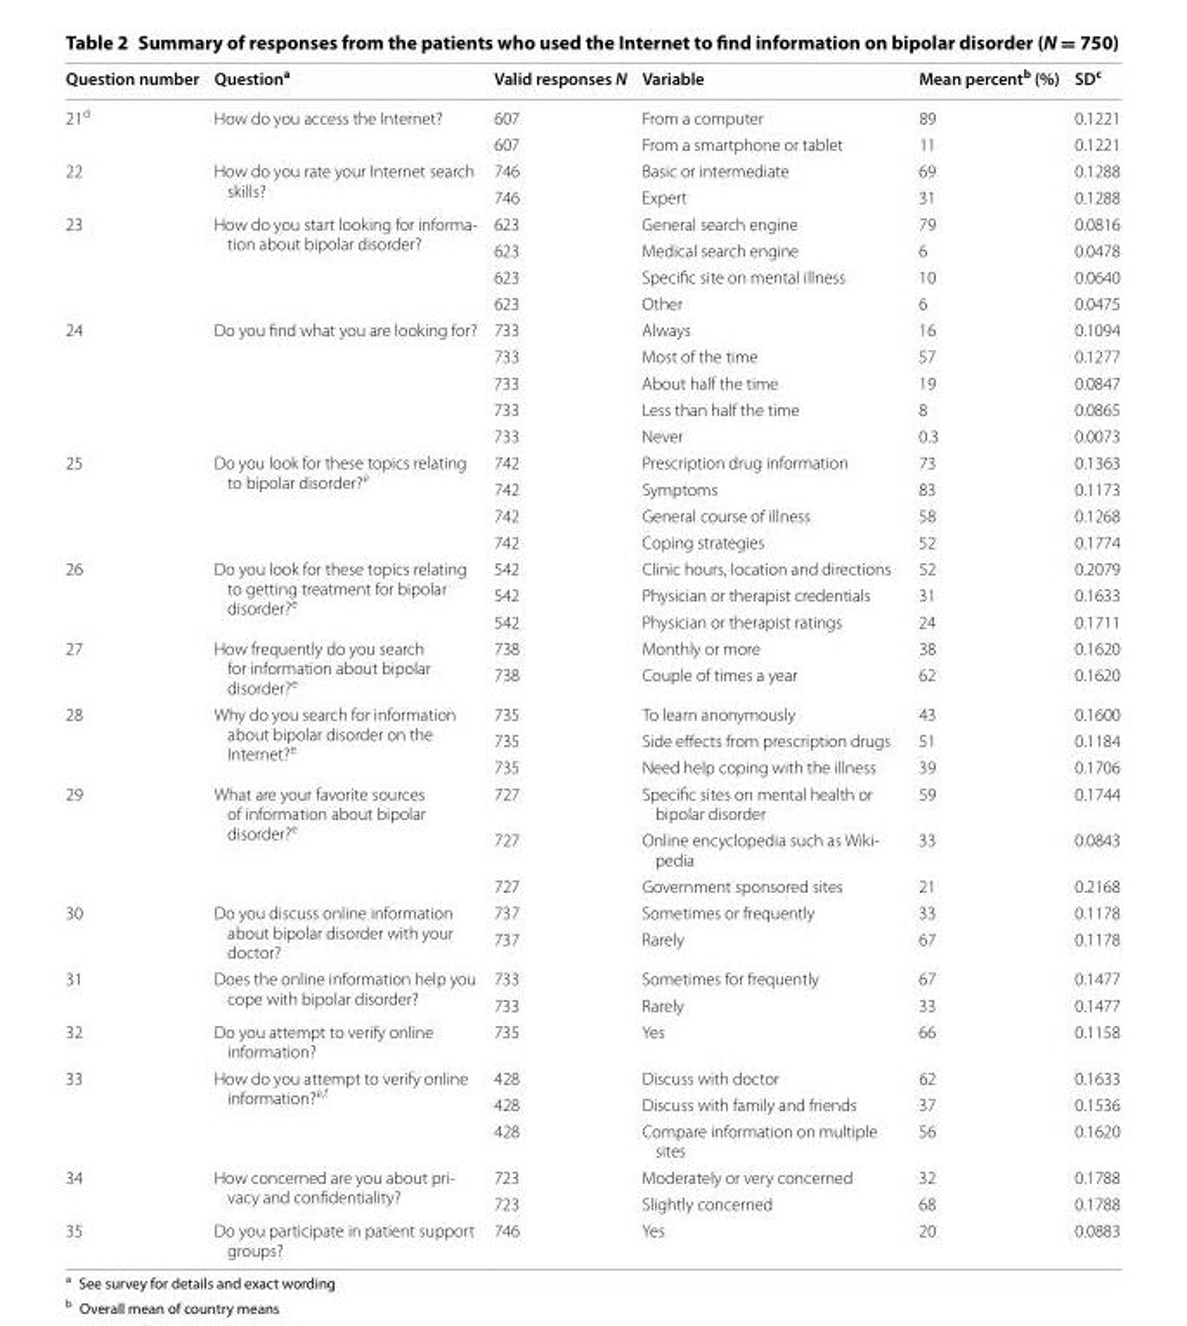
<table><thead><tr><td>Question number</td><td>Question<sup>a</sup></td><td>Valid responses N</td><td>Variable</td><td>Mean percent<sup>b</sup> (%)</td><td>SD<sup>c</sup></td></tr></thead><tbody><tr><td rowspan="2">21<sup>d</sup></td><td rowspan="2">How do you access the Internet?</td><td>607</td><td>From a computer</td><td>89</td><td>0.1221</td></tr><tr><td>607</td><td>From a smartphone or tablet</td><td>11</td><td>0.1221</td></tr><tr><td rowspan="2">22</td><td rowspan="2">How do you rate your Internet search skills?</td><td>746</td><td>Basic or intermediate</td><td>69</td><td>0.1288</td></tr><tr><td>746</td><td>Expert</td><td>31</td><td>0.1288</td></tr><tr><td rowspan="4">23</td><td rowspan="4">How do you start looking for informa‑ tion about bipolar disorder?</td><td>623</td><td>General search engine</td><td>79</td><td>0.0816</td></tr><tr><td>623</td><td>Medical search engine</td><td>6</td><td>0.0478</td></tr><tr><td>623</td><td>Specific site on mental illness</td><td>10</td><td>0.0640</td></tr><tr><td>623</td><td>Other</td><td>6</td><td>0.0475</td></tr><tr><td rowspan="5">24</td><td rowspan="5">Do you find what you are looking for?</td><td>733</td><td>Always</td><td>16</td><td>0.1094</td></tr><tr><td>733</td><td>Most of the time</td><td>57</td><td>0.1277</td></tr><tr><td>733</td><td>About half the time</td><td>19</td><td>0.0847</td></tr><tr><td>733</td><td>Less than half the time</td><td>8</td><td>0.0865</td></tr><tr><td>733</td><td>Never</td><td>0.3</td><td>0.0073</td></tr><tr><td rowspan="4">25</td><td rowspan="4">Do you look for these topics relating to bipolar disorder?<sup>e</sup></td><td>742</td><td>Prescription drug information</td><td>73</td><td>0.1363</td></tr><tr><td>742</td><td>Symptoms</td><td>83</td><td>0.1173</td></tr><tr><td>742</td><td>General course of illness</td><td>58</td><td>0.1268</td></tr><tr><td>742</td><td>Coping strategies</td><td>52</td><td>0.1774</td></tr><tr><td rowspan="3">26</td><td rowspan="3">Do you look for these topics relating to getting treatment for bipolar disorder?<sup>e</sup></td><td>542</td><td>Clinic hours, location and directions</td><td>52</td><td>0.2079</td></tr><tr><td>542</td><td>Physician or therapist credentials</td><td>31</td><td>0.1633</td></tr><tr><td>542</td><td>Physician or therapist ratings</td><td>24</td><td>0.1711</td></tr><tr><td rowspan="2">27</td><td rowspan="2">How frequently do you search for information about bipolar disorder?<sup>e</sup></td><td>738</td><td>Monthly or more</td><td>38</td><td>0.1620</td></tr><tr><td>738</td><td>Couple of times a year</td><td>62</td><td>0.1620</td></tr><tr><td rowspan="3">28</td><td rowspan="3">Why do you search for information about bipolar disorder on the Internet?<sup>e</sup></td><td>735</td><td>To learn anonymously</td><td>43</td><td>0.1600</td></tr><tr><td>735</td><td>Side effects from prescription drugs</td><td>51</td><td>0.1184</td></tr><tr><td>735</td><td>Need help coping with the illness</td><td>39</td><td>0.1706</td></tr><tr><td rowspan="3">29</td><td rowspan="3">What are your favorite sources of information about bipolar disorder?<sup>e</sup></td><td>727</td><td>Specific sites on mental health or bipolar disorder</td><td>59</td><td>0.1744</td></tr><tr><td>727</td><td>Online encyclopedia such as Wiki‑ pedia</td><td>33</td><td>0.0843</td></tr><tr><td>727</td><td>Government sponsored sites</td><td>21</td><td>0.2168</td></tr><tr><td rowspan="2">30</td><td rowspan="2">Do you discuss online information about bipolar disorder with your doctor?</td><td>737</td><td>Sometimes or frequently</td><td>33</td><td>0.1178</td></tr><tr><td>737</td><td>Rarely</td><td>67</td><td>0.1178</td></tr><tr><td rowspan="2">31</td><td rowspan="2">Does the online information help you cope with bipolar disorder?</td><td>733</td><td>Sometimes for frequently</td><td>67</td><td>0.1477</td></tr><tr><td>733</td><td>Rarely</td><td>33</td><td>0.1477</td></tr><tr><td>32</td><td>Do you attempt to verify online information?</td><td>735</td><td>Yes</td><td>66</td><td>0.1158</td></tr><tr><td rowspan="3">33</td><td rowspan="3">How do you attempt to verify online information?<sup>e,f</sup></td><td>428</td><td>Discuss with doctor</td><td>62</td><td>0.1633</td></tr><tr><td>428</td><td>Discuss with family and friends</td><td>37</td><td>0.1536</td></tr><tr><td>428</td><td>Compare information on multiple sites</td><td>56</td><td>0.1620</td></tr><tr><td rowspan="2">34</td><td rowspan="2">How concerned are you about pri‑ vacy and confidentiality?</td><td>723</td><td>Moderately or very concerned</td><td>32</td><td>0.1788</td></tr><tr><td>723</td><td>Slightly concerned</td><td>68</td><td>0.1788</td></tr><tr><td>35</td><td>Do you participate in patient support groups?</td><td>746</td><td>Yes</td><td>20</td><td>0.0883</td></tr></tbody></table>